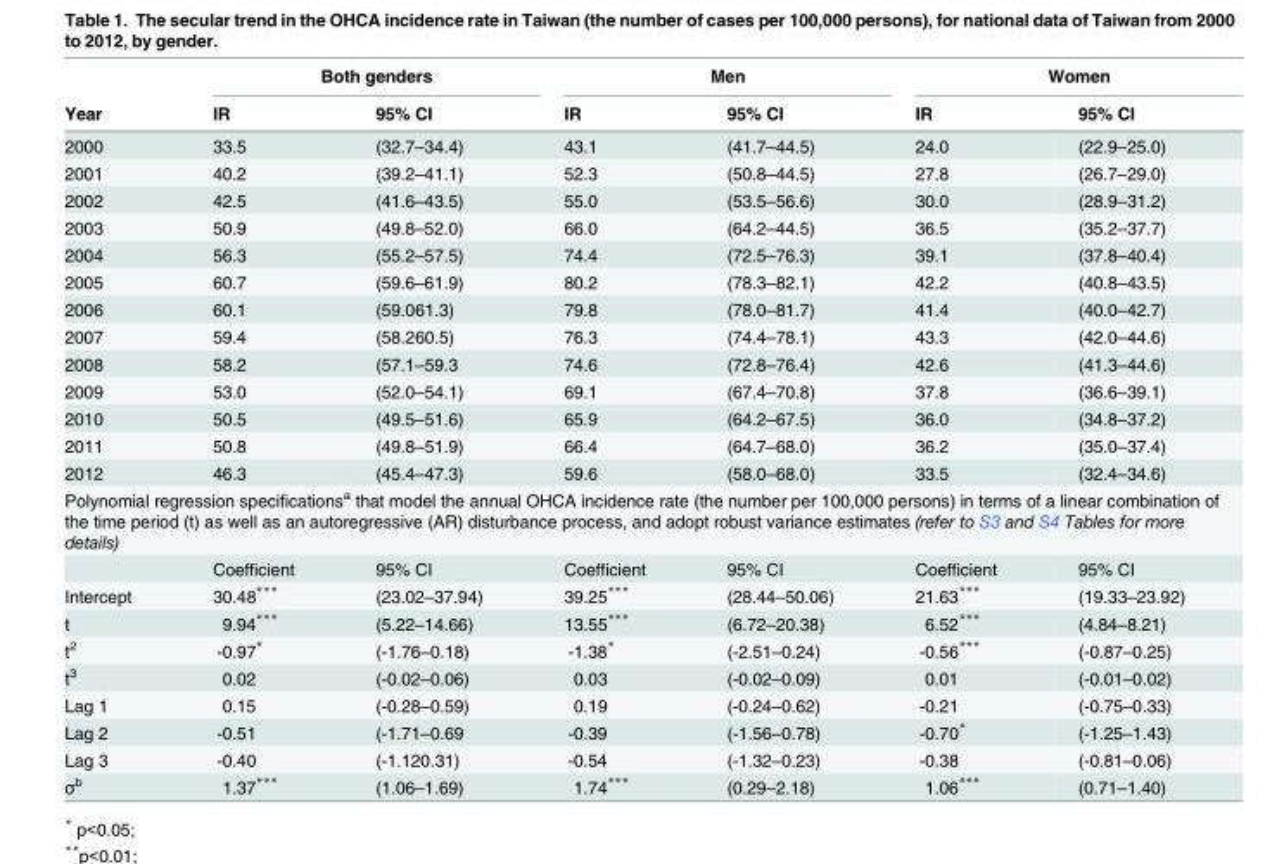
<table><thead><tr><td rowspan="2">Year</td><td colspan="2">Both genders</td><td colspan="2">Men</td><td colspan="2">Women</td></tr><tr><td>IR</td><td>95% CI</td><td>IR</td><td>95% CI</td><td>IR</td><td>95% CI</td></tr></thead><tbody><tr><td>2000</td><td>33.5</td><td>(32.7–34.4)</td><td>43.1</td><td>(41.7–44.5)</td><td>24.0</td><td>(22.9–25.0)</td></tr><tr><td>2001</td><td>40.2</td><td>(39.2–41.1)</td><td>52.3</td><td>(50.8–44.5)</td><td>27.8</td><td>(26.7–29.0)</td></tr><tr><td>2002</td><td>42.5</td><td>(41.6–43.5)</td><td>55.0</td><td>(53.5–56.6)</td><td>30.0</td><td>(28.9–31.2)</td></tr><tr><td>2003</td><td>50.9</td><td>(49.8–52.0)</td><td>66.0</td><td>(64.2–44.5)</td><td>36.5</td><td>(35.2–37.7)</td></tr><tr><td>2004</td><td>56.3</td><td>(55.2–57.5)</td><td>74.4</td><td>(72.5–76.3)</td><td>39.1</td><td>(37.8–40.4)</td></tr><tr><td>2005</td><td>60.7</td><td>(59.6–61.9)</td><td>80.2</td><td>(78.3–82.1)</td><td>42.2</td><td>(40.8–43.5)</td></tr><tr><td>2006</td><td>60.1</td><td>(59.061.3)</td><td>79.8</td><td>(78.0–81.7)</td><td>41.4</td><td>(40.0–42.7)</td></tr><tr><td>2007</td><td>59.4</td><td>(58.260.5)</td><td>76.3</td><td>(74.4–78.1)</td><td>43.3</td><td>(42.0–44.6)</td></tr><tr><td>2008</td><td>58.2</td><td>(57.1–59.3</td><td>74.6</td><td>(72.8–76.4)</td><td>42.6</td><td>(41.3–44.6)</td></tr><tr><td>2009</td><td>53.0</td><td>(52.0–54.1)</td><td>69.1</td><td>(67.4–70.8)</td><td>37.8</td><td>(36.6–39.1)</td></tr><tr><td>2010</td><td>50.5</td><td>(49.5–51.6)</td><td>65.9</td><td>(64.2–67.5)</td><td>36.0</td><td>(34.8–37.2)</td></tr><tr><td>2011</td><td>50.8</td><td>(49.8–51.9)</td><td>66.4</td><td>(64.7–68.0)</td><td>36.2</td><td>(35.0–37.4)</td></tr><tr><td>2012</td><td>46.3</td><td>(45.4–47.3)</td><td>59.6</td><td>(58.0–68.0)</td><td>33.5</td><td>(32.4–34.6)</td></tr><tr><td colspan="7">Polynomial regression specifications<sup>a</sup> that model the annual OHCA incidence rate (the number per 100,000 persons) in terms of a linear combination of the time period (t) as well as an autoregressive (AR) disturbance process, and adopt robust variance estimates (refer to S3 and S4 Tables for more details)</td></tr><tr><td></td><td>Coefficient</td><td>95% CI</td><td>Coefficient</td><td>95% CI</td><td>Coefficient</td><td>95% CI</td></tr><tr><td>Intercept</td><td>30.48***</td><td>(23.02–37.94)</td><td>39.25***</td><td>(28.44–50.06)</td><td>21.63***</td><td>(19.33–23.92)</td></tr><tr><td>t</td><td>9.94***</td><td>(5.22–14.66)</td><td>13.55***</td><td>(6.72–20.38)</td><td>6.52***</td><td>(4.84–8.21)</td></tr><tr><td>t<sup>2</sup></td><td>-0.97*</td><td>(-1.76–0.18)</td><td>-1.38*</td><td>(-2.51–0.24)</td><td>-0.56***</td><td>(-0.87–0.25)</td></tr><tr><td>t<sup>3</sup></td><td>0.02</td><td>(-0.02–0.06)</td><td>0.03</td><td>(-0.02–0.09)</td><td>0.01</td><td>(-0.01–0.02)</td></tr><tr><td>Lag 1</td><td>0.15</td><td>(-0.28–0.59)</td><td>0.19</td><td>(-0.24–0.62)</td><td>-0.21</td><td>(-0.75–0.33)</td></tr><tr><td>Lag 2</td><td>-0.51</td><td>(-1.71–0.69</td><td>-0.39</td><td>(-1.56–0.78)</td><td>-0.70*</td><td>(-1.25–1.43)</td></tr><tr><td>Lag 3</td><td>-0.40</td><td>(-1.120.31)</td><td>-0.54</td><td>(-1.32–0.23)</td><td>-0.38</td><td>(-0.81–0.06)</td></tr><tr><td>σ<sup>b</sup></td><td>1.37***</td><td>(1.06–1.69)</td><td>1.74***</td><td>(0.29–2.18)</td><td>1.06***</td><td>(0.71–1.40)</td></tr></tbody></table>